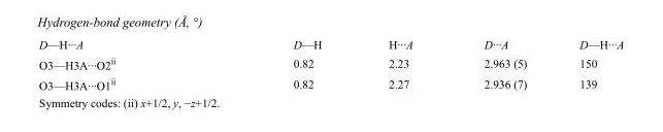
<table><tbody><tr><td>D—H···A</td><td>D—H</td><td>H···A</td><td>D···A</td><td>D—H···A</td></tr><tr><td>O3—H3A···O2<sup>ii</sup></td><td>0.82</td><td>2.23</td><td>2.963 (5)</td><td>150</td></tr><tr><td>O3—H3A···O1<sup>ii</sup></td><td>0.82</td><td>2.27</td><td>2.936 (7)</td><td>139</td></tr></tbody></table>